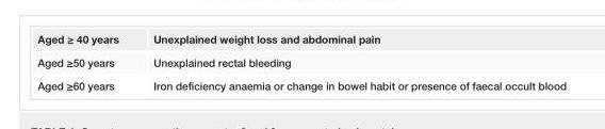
<table><tbody><tr><td>Aged ≥ 40 years</td><td>Unexplained weight loss and abdominal pain</td></tr><tr><td>Aged ≥50 years</td><td>Unexplained rectal bleeding</td></tr><tr><td>Aged ≥60 years</td><td>Iron deficiency anaemia or change in bowel habit or presence of faecal occult blood</td></tr></tbody></table>